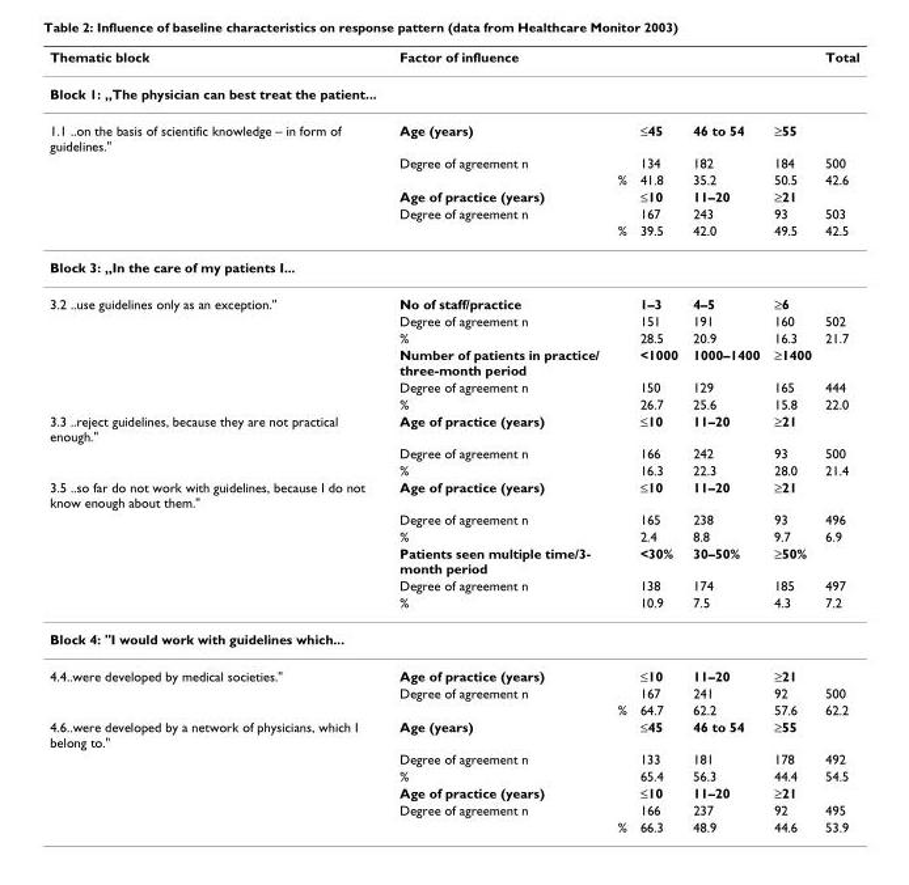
<table><thead><tr><td>Thematic block</td><td>Factor of influence</td><td></td><td></td><td></td><td>Total</td></tr></thead><tbody><tr><td colspan="6">Block 1: „The physician can best treat the patient...</td></tr><tr><td rowspan="6">1.1 ..on the basis of scientific knowledge – in form of guidelines.&quot;</td><td>Age (years)</td><td>≤45</td><td>46 to 54</td><td>≥55</td><td></td></tr><tr><td>Degree of agreement n</td><td>134</td><td>182</td><td>184</td><td>500</td></tr><tr><td>%</td><td>41.8</td><td>35.2</td><td>50.5</td><td>42.6</td></tr><tr><td>Age of practice (years)</td><td>≤10</td><td>11–20</td><td>≥21</td><td></td></tr><tr><td>Degree of agreement n</td><td>167</td><td>243</td><td>93</td><td>503</td></tr><tr><td>%</td><td>39.5</td><td>42.0</td><td>49.5</td><td>42.5</td></tr><tr><td colspan="6">Block 3: „In the care of my patients I...</td></tr><tr><td rowspan="6">3.2 ..use guidelines only as an exception.&quot;</td><td>No of staff/practice</td><td>1–3</td><td>4–5</td><td>≥6</td><td></td></tr><tr><td>Degree of agreement n</td><td>151</td><td>191</td><td>160</td><td>502</td></tr><tr><td>%</td><td>28.5</td><td>20.9</td><td>16.3</td><td>21.7</td></tr><tr><td>Number of patients in practice/ three-month period</td><td>&lt;1000</td><td>1000–1400</td><td>≥1400</td><td></td></tr><tr><td>Degree of agreement n</td><td>150</td><td>129</td><td>165</td><td>444</td></tr><tr><td>%</td><td>26.7</td><td>25.6</td><td>15.8</td><td>22.0</td></tr><tr><td rowspan="3">3.3 ..reject guidelines, because they are not practical enough.&quot;</td><td>Age of practice (years)</td><td>≤10</td><td>11–20</td><td>≥21</td><td></td></tr><tr><td>Degree of agreement n</td><td>166</td><td>242</td><td>93</td><td>500</td></tr><tr><td>%</td><td>16.3</td><td>22.3</td><td>28.0</td><td>21.4</td></tr><tr><td rowspan="6">3.5 ..so far do not work with guidelines, because I do not know enough about them.&quot;</td><td>Age of practice (years)</td><td>≤10</td><td>11–20</td><td>≥21</td><td></td></tr><tr><td>Degree of agreement n</td><td>165</td><td>238</td><td>93</td><td>496</td></tr><tr><td>%</td><td>2.4</td><td>8.8</td><td>9.7</td><td>6.9</td></tr><tr><td>Patients seen multiple time/3- month period</td><td>&lt;30%</td><td>30–50%</td><td>≥50%</td><td></td></tr><tr><td>Degree of agreement n</td><td>138</td><td>174</td><td>185</td><td>497</td></tr><tr><td>%</td><td>10.9</td><td>7.5</td><td>4.3</td><td>7.2</td></tr><tr><td colspan="6">Block 4: &quot;I would work with guidelines which...</td></tr><tr><td rowspan="3">4.4..were developed by medical societies.&quot;</td><td>Age of practice (years)</td><td>≤10</td><td>11–20</td><td>≥21</td><td></td></tr><tr><td>Degree of agreement n</td><td>167</td><td>241</td><td>92</td><td>500</td></tr><tr><td>%</td><td>64.7</td><td>62.2</td><td>57.6</td><td>62.2</td></tr><tr><td rowspan="6">4.6..were developed by a network of physicians, which I belong to.&quot;</td><td>Age (years)</td><td>≤45</td><td>46 to 54</td><td>≥55</td><td></td></tr><tr><td>Degree of agreement n</td><td>133</td><td>181</td><td>178</td><td>492</td></tr><tr><td>%</td><td>65.4</td><td>56.3</td><td>44.4</td><td>54.5</td></tr><tr><td>Age of practice (years)</td><td>≤10</td><td>11–20</td><td>≥21</td><td></td></tr><tr><td>Degree of agreement n</td><td>166</td><td>237</td><td>92</td><td>495</td></tr><tr><td>%</td><td>66.3</td><td>48.9</td><td>44.6</td><td>53.9</td></tr></tbody></table>